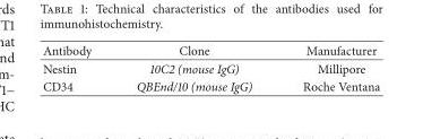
<table><thead><tr><td>Antibody</td><td>Clone</td><td>Manufacturer</td></tr></thead><tbody><tr><td>Nestin</td><td>10C2 (mouse IgG)</td><td>Millipore</td></tr><tr><td>CD34</td><td>QBEnd/10 (mouse IgG)</td><td>Roche Ventana</td></tr></tbody></table>